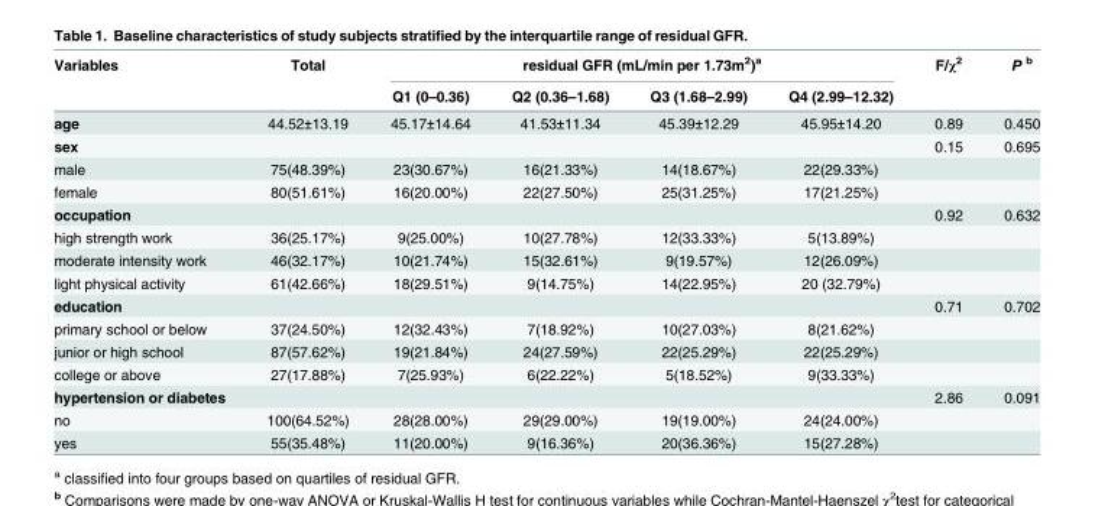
<table><thead><tr><td rowspan="2">Variables</td><td rowspan="2">Total</td><td colspan="4">residual GFR (mL/min per 1.73m<sup>2</sup>)<sup>a</sup></td><td rowspan="2">F/χ<sup>2</sup></td><td rowspan="2">P <sup>b</sup></td></tr><tr><td>Q1 (0–0.36)</td><td>Q2 (0.36–1.68)</td><td>Q3 (1.68–2.99)</td><td>Q4 (2.99–12.32)</td></tr></thead><tbody><tr><td>age</td><td>44.52±13.19</td><td>45.17±14.64</td><td>41.53±11.34</td><td>45.39±12.29</td><td>45.95±14.20</td><td>0.89</td><td>0.450</td></tr><tr><td>sex</td><td></td><td></td><td></td><td></td><td></td><td>0.15</td><td>0.695</td></tr><tr><td>male</td><td>75(48.39%)</td><td>23(30.67%)</td><td>16(21.33%)</td><td>14(18.67%)</td><td>22(29.33%)</td><td></td><td></td></tr><tr><td>female</td><td>80(51.61%)</td><td>16(20.00%)</td><td>22(27.50%)</td><td>25(31.25%)</td><td>17(21.25%)</td><td></td><td></td></tr><tr><td>occupation</td><td></td><td></td><td></td><td></td><td></td><td>0.92</td><td>0.632</td></tr><tr><td>high strength work</td><td>36(25.17%)</td><td>9(25.00%)</td><td>10(27.78%)</td><td>12(33.33%)</td><td>5(13.89%)</td><td></td><td></td></tr><tr><td>moderate intensity work</td><td>46(32.17%)</td><td>10(21.74%)</td><td>15(32.61%)</td><td>9(19.57%)</td><td>12(26.09%)</td><td></td><td></td></tr><tr><td>light physical activity</td><td>61(42.66%)</td><td>18(29.51%)</td><td>9(14.75%)</td><td>14(22.95%)</td><td>20 (32.79%)</td><td></td><td></td></tr><tr><td>education</td><td></td><td></td><td></td><td></td><td></td><td>0.71</td><td>0.702</td></tr><tr><td>primary school or below</td><td>37(24.50%)</td><td>12(32.43%)</td><td>7(18.92%)</td><td>10(27.03%)</td><td>8(21.62%)</td><td></td><td></td></tr><tr><td>junior or high school</td><td>87(57.62%)</td><td>19(21.84%)</td><td>24(27.59%)</td><td>22(25.29%)</td><td>22(25.29%)</td><td></td><td></td></tr><tr><td>college or above</td><td>27(17.88%)</td><td>7(25.93%)</td><td>6(22.22%)</td><td>5(18.52%)</td><td>9(33.33%)</td><td></td><td></td></tr><tr><td>hypertension or diabetes</td><td></td><td></td><td></td><td></td><td></td><td>2.86</td><td>0.091</td></tr><tr><td>no</td><td>100(64.52%)</td><td>28(28.00%)</td><td>29(29.00%)</td><td>19(19.00%)</td><td>24(24.00%)</td><td></td><td></td></tr><tr><td>yes</td><td>55(35.48%)</td><td>11(20.00%)</td><td>9(16.36%)</td><td>20(36.36%)</td><td>15(27.28%)</td><td></td><td></td></tr></tbody></table>